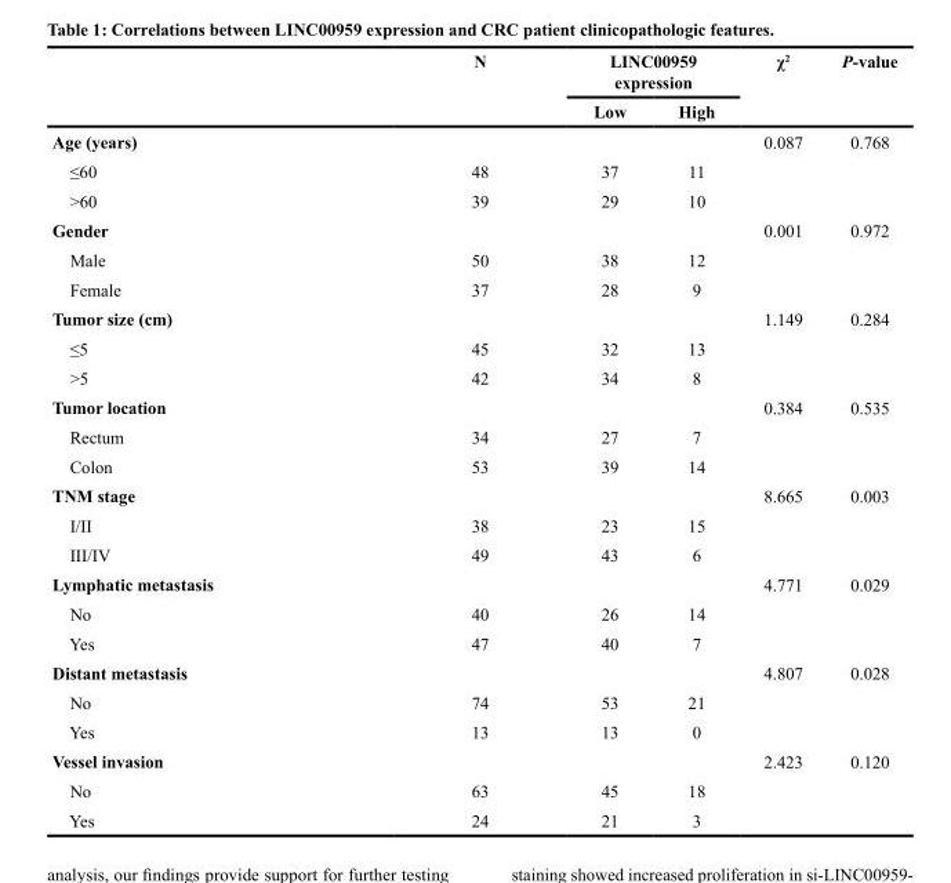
<table><thead><tr><td rowspan="2"></td><td rowspan="2">N</td><td colspan="2">LINC00959 expression</td><td rowspan="2">χ<sup>2</sup></td><td rowspan="2">P-value</td></tr><tr><td>Low</td><td>High</td></tr></thead><tbody><tr><td>Age (years)</td><td></td><td></td><td></td><td>0.087</td><td>0.768</td></tr><tr><td>≤60</td><td>48</td><td>37</td><td>11</td><td></td><td></td></tr><tr><td>&gt;60</td><td>39</td><td>29</td><td>10</td><td></td><td></td></tr><tr><td>Gender</td><td></td><td></td><td></td><td>0.001</td><td>0.972</td></tr><tr><td>Male</td><td>50</td><td>38</td><td>12</td><td></td><td></td></tr><tr><td>Female</td><td>37</td><td>28</td><td>9</td><td></td><td></td></tr><tr><td>Tumor size (cm)</td><td></td><td></td><td></td><td>1.149</td><td>0.284</td></tr><tr><td>≤5</td><td>45</td><td>32</td><td>13</td><td></td><td></td></tr><tr><td>&gt;5</td><td>42</td><td>34</td><td>8</td><td></td><td></td></tr><tr><td>Tumor location</td><td></td><td></td><td></td><td>0.384</td><td>0.535</td></tr><tr><td>Rectum</td><td>34</td><td>27</td><td>7</td><td></td><td></td></tr><tr><td>Colon</td><td>53</td><td>39</td><td>14</td><td></td><td></td></tr><tr><td>TNM stage</td><td></td><td></td><td></td><td>8.665</td><td>0.003</td></tr><tr><td>I/II</td><td>38</td><td>23</td><td>15</td><td></td><td></td></tr><tr><td>III/IV</td><td>49</td><td>43</td><td>6</td><td></td><td></td></tr><tr><td>Lymphatic metastasis</td><td></td><td></td><td></td><td>4.771</td><td>0.029</td></tr><tr><td>No</td><td>40</td><td>26</td><td>14</td><td></td><td></td></tr><tr><td>Yes</td><td>47</td><td>40</td><td>7</td><td></td><td></td></tr><tr><td>Distant metastasis</td><td></td><td></td><td></td><td>4.807</td><td>0.028</td></tr><tr><td>No</td><td>74</td><td>53</td><td>21</td><td></td><td></td></tr><tr><td>Yes</td><td>13</td><td>13</td><td>0</td><td></td><td></td></tr><tr><td>Vessel invasion</td><td></td><td></td><td></td><td>2.423</td><td>0.120</td></tr><tr><td>No</td><td>63</td><td>45</td><td>18</td><td></td><td></td></tr><tr><td>Yes</td><td>24</td><td>21</td><td>3</td><td></td><td></td></tr></tbody></table>